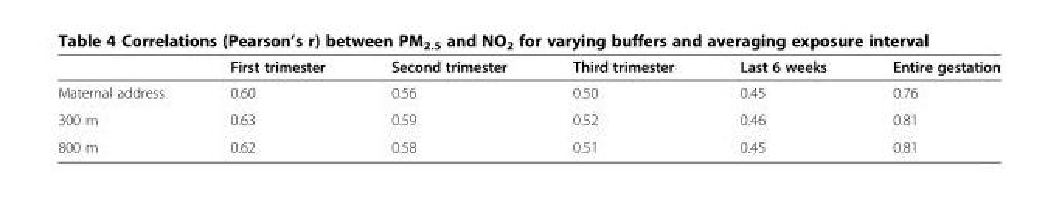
<table><thead><tr><td></td><td>First trimester</td><td>Second trimester</td><td>Third trimester</td><td>Last 6 weeks</td><td>Entire gestation</td></tr></thead><tbody><tr><td>Maternal address</td><td>0.60</td><td>0.56</td><td>0.50</td><td>0.45</td><td>0.76</td></tr><tr><td>300 m</td><td>0.63</td><td>0.59</td><td>0.52</td><td>0.46</td><td>0.81</td></tr><tr><td>800 m</td><td>0.62</td><td>0.58</td><td>0.51</td><td>0.45</td><td>0.81</td></tr></tbody></table>